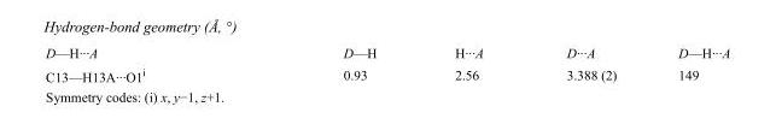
<table><tbody><tr><td>D—H···A</td><td>D—H</td><td>H···A</td><td>D···A</td><td>D—H···A</td></tr><tr><td>C13—H13A···O1<sup>i</sup></td><td>0.93</td><td>2.56</td><td>3.388 (2)</td><td>149</td></tr></tbody></table>